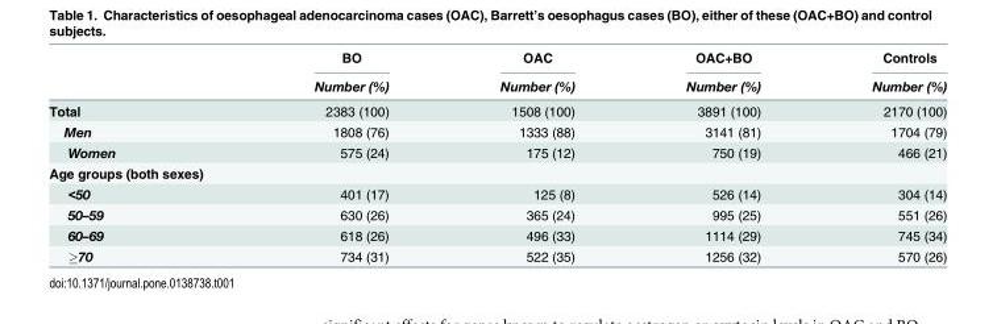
<table><thead><tr><td rowspan="2"></td><td rowspan="2">BO Number (%)</td><td rowspan="2">OAC Number (%)</td><td rowspan="2">OAC+BO Number (%)</td><td rowspan="2">Controls Number (%)</td></tr><tr></tr></thead><tbody><tr><td>Total</td><td>2383 (100)</td><td>1508 (100)</td><td>3891 (100)</td><td>2170 (100)</td></tr><tr><td>Men</td><td>1808 (76)</td><td>1333 (88)</td><td>3141 (81)</td><td>1704 (79)</td></tr><tr><td>Women</td><td>575 (24)</td><td>175 (12)</td><td>750 (19)</td><td>466 (21)</td></tr><tr><td colspan="5">Age groups (both sexes)</td></tr><tr><td>&lt;50</td><td>401 (17)</td><td>125 (8)</td><td>526 (14)</td><td>304 (14)</td></tr><tr><td>50–59</td><td>630 (26)</td><td>365 (24)</td><td>995 (25)</td><td>551 (26)</td></tr><tr><td>60–69</td><td>618 (26)</td><td>496 (33)</td><td>1114 (29)</td><td>745 (34)</td></tr><tr><td>≥70</td><td>734 (31)</td><td>522 (35)</td><td>1256 (32)</td><td>570 (26)</td></tr></tbody></table>